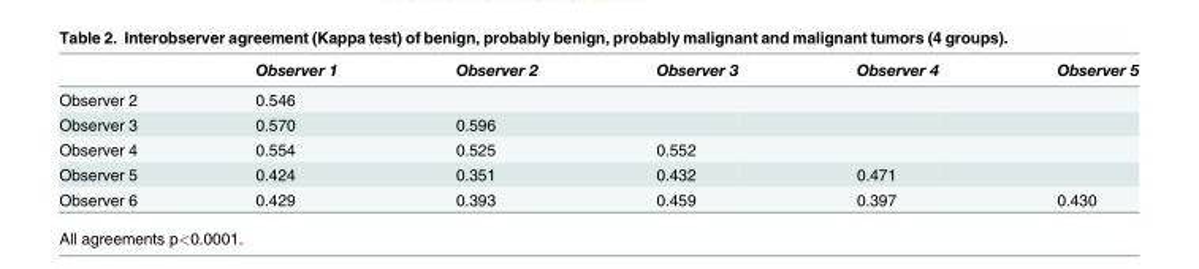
<table><thead><tr><td></td><td>Observer 1</td><td>Observer 2</td><td>Observer 3</td><td>Observer 4</td><td>Observer 5</td></tr></thead><tbody><tr><td>Observer 2</td><td>0.546</td><td></td><td></td><td></td><td></td></tr><tr><td>Observer 3</td><td>0.570</td><td>0.596</td><td></td><td></td><td></td></tr><tr><td>Observer 4</td><td>0.554</td><td>0.525</td><td>0.552</td><td></td><td></td></tr><tr><td>Observer 5</td><td>0.424</td><td>0.351</td><td>0.432</td><td>0.471</td><td></td></tr><tr><td>Observer 6</td><td>0.429</td><td>0.393</td><td>0.459</td><td>0.397</td><td>0.430</td></tr></tbody></table>